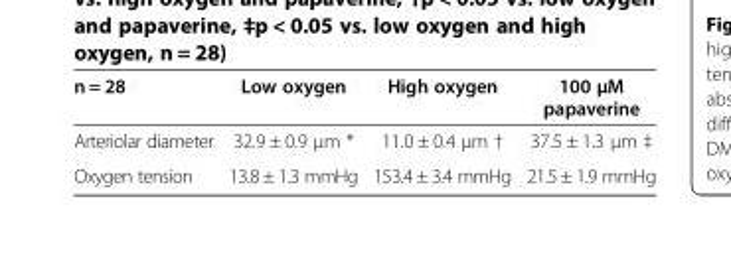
<table><thead><tr><td>n = 28</td><td>Low oxygen</td><td>High oxygen</td><td>100 μM papaverine</td></tr></thead><tbody><tr><td>Arteriolar diameter</td><td>32.9 ± 0.9 μm *</td><td>11.0 ± 0.4 μm †</td><td>37.5 ± 1.3 μm ‡</td></tr><tr><td>Oxygen tension</td><td>13.8 ± 1.3 mmHg</td><td>153.4 ± 3.4 mmHg</td><td>21.5 ± 1.9 mmHg</td></tr></tbody></table>